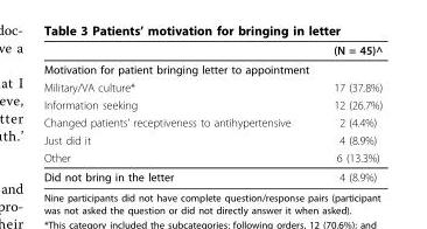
<table><thead><tr><td></td><td>(N = 45)^</td></tr></thead><tbody><tr><td colspan="2">Motivation for patient bringing letter to appointment</td></tr><tr><td>Military/VA culture*</td><td>17 (37.8%)</td></tr><tr><td>Information seeking</td><td>12 (26.7%)</td></tr><tr><td>Changed patients’ receptiveness to antihypertensive</td><td>2 (4.4%)</td></tr><tr><td>Just did it</td><td>4 (8.9%)</td></tr><tr><td>Other</td><td>6 (13.3%)</td></tr><tr><td>Did not bring in the letter</td><td>4 (8.9%)</td></tr></tbody></table>